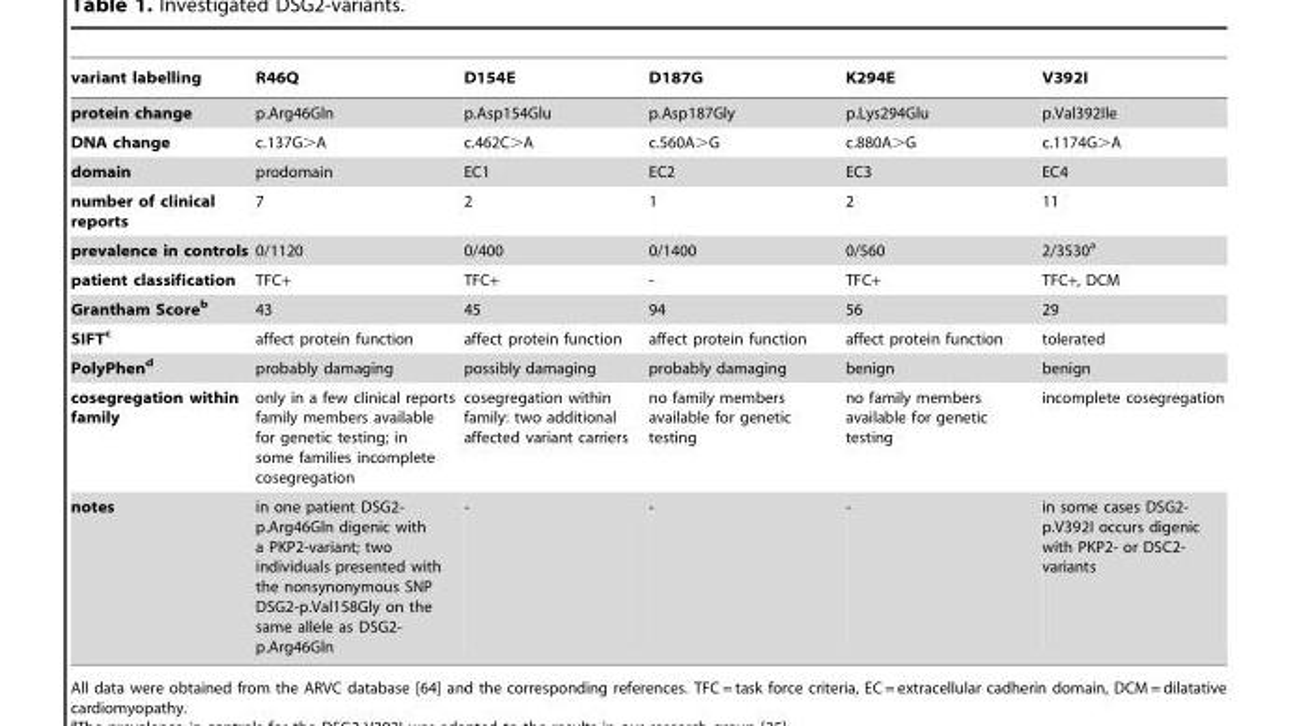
<table><thead><tr><td>variant labelling</td><td>R46Q</td><td>D154E</td><td>D187G</td><td>K294E</td><td>V392I</td></tr></thead><tbody><tr><td>protein change</td><td>p.Arg46Gln</td><td>p.Asp154Glu</td><td>p.Asp187Gly</td><td>p.Lys294Glu</td><td>p.Val392Ile</td></tr><tr><td>DNA change</td><td>c.137G&gt;A</td><td>c.462C&gt;A</td><td>c.560A&gt;G</td><td>c.880A&gt;G</td><td>c.1174G&gt;A</td></tr><tr><td>domain</td><td>prodomain</td><td>EC1</td><td>EC2</td><td>EC3</td><td>EC4</td></tr><tr><td>number of clinical reports</td><td>7</td><td>2</td><td>1</td><td>2</td><td>11</td></tr><tr><td>prevalence in controls</td><td>0/1120</td><td>0/400</td><td>0/1400</td><td>0/560</td><td>2/3530<sup>a</sup></td></tr><tr><td>patient classification</td><td>TFC+</td><td>TFC+</td><td>-</td><td>TFC+</td><td>TFC+, DCM</td></tr><tr><td>Grantham Scoreb</td><td>43</td><td>45</td><td>94</td><td>56</td><td>29</td></tr><tr><td>SIFTc</td><td>affect protein function</td><td>affect protein function</td><td>affect protein function</td><td>affect protein function</td><td>tolerated</td></tr><tr><td>PolyPhend</td><td>probably damaging</td><td>possibly damaging</td><td>probably damaging</td><td>benign</td><td>benign</td></tr><tr><td>cosegregation within family</td><td>only in a few clinical reports family members available for genetic testing; in some families incomplete cosegregation</td><td>cosegregation within family: two additional affected variant carriers</td><td>no family members available for genetic testing</td><td>no family members available for genetic testing</td><td>incomplete cosegregation</td></tr><tr><td>notes</td><td>in one patient DSG2- p.Arg46Gln digenic with a PKP2-variant; two individuals presented with the nonsynonymous SNP DSG2-p.Val158Gly on the same allele as DSG2- p.Arg46Gln</td><td>-</td><td>-</td><td>-</td><td>in some cases DSG2- p.V392I occurs digenic with PKP2- or DSC2- variants</td></tr></tbody></table>